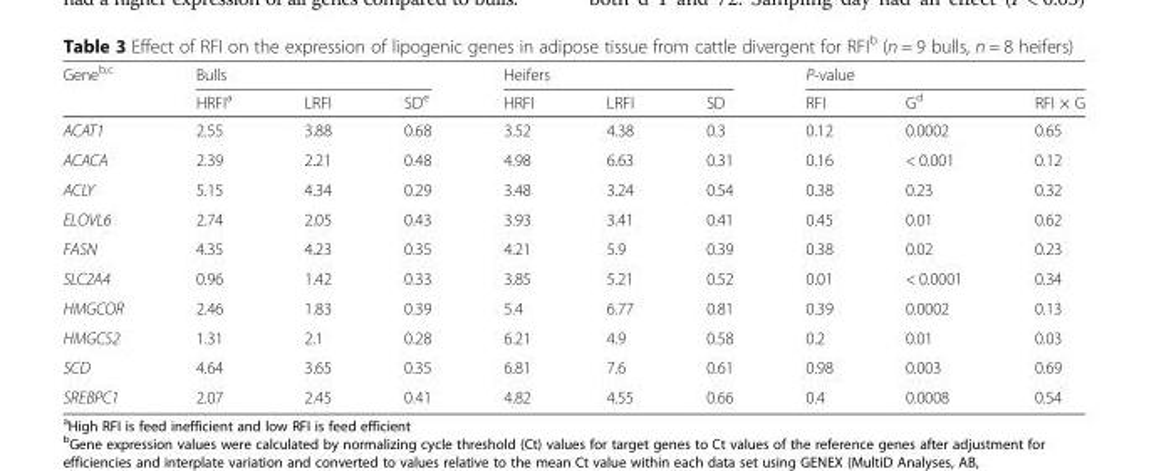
<table><thead><tr><td rowspan="2">Gene<sup>b,c</sup></td><td colspan="3">Bulls</td><td colspan="3">Heifers</td><td colspan="3">P-value</td></tr><tr><td>HRFI<sup>a</sup></td><td>LRFI</td><td>SD<sup>e</sup></td><td>HRFI</td><td>LRFI</td><td>SD</td><td>RFI</td><td>G<sup>d</sup></td><td>RFI × G</td></tr></thead><tbody><tr><td>ACAT1</td><td>2.55</td><td>3.88</td><td>0.68</td><td>3.52</td><td>4.38</td><td>0.3</td><td>0.12</td><td>0.0002</td><td>0.65</td></tr><tr><td>ACACA</td><td>2.39</td><td>2.21</td><td>0.48</td><td>4.98</td><td>6.63</td><td>0.31</td><td>0.16</td><td>&lt; 0.001</td><td>0.12</td></tr><tr><td>ACLY</td><td>5.15</td><td>4.34</td><td>0.29</td><td>3.48</td><td>3.24</td><td>0.54</td><td>0.38</td><td>0.23</td><td>0.32</td></tr><tr><td>ELOVL6</td><td>2.74</td><td>2.05</td><td>0.43</td><td>3.93</td><td>3.41</td><td>0.41</td><td>0.45</td><td>0.01</td><td>0.62</td></tr><tr><td>FASN</td><td>4.35</td><td>4.23</td><td>0.35</td><td>4.21</td><td>5.9</td><td>0.39</td><td>0.38</td><td>0.02</td><td>0.23</td></tr><tr><td>SLC2A4</td><td>0.96</td><td>1.42</td><td>0.33</td><td>3.85</td><td>5.21</td><td>0.52</td><td>0.01</td><td>&lt; 0.0001</td><td>0.34</td></tr><tr><td>HMGCOR</td><td>2.46</td><td>1.83</td><td>0.39</td><td>5.4</td><td>6.77</td><td>0.81</td><td>0.39</td><td>0.0002</td><td>0.13</td></tr><tr><td>HMGCS2</td><td>1.31</td><td>2.1</td><td>0.28</td><td>6.21</td><td>4.9</td><td>0.58</td><td>0.2</td><td>0.01</td><td>0.03</td></tr><tr><td>SCD</td><td>4.64</td><td>3.65</td><td>0.35</td><td>6.81</td><td>7.6</td><td>0.61</td><td>0.98</td><td>0.003</td><td>0.69</td></tr><tr><td>SREBPC1</td><td>2.07</td><td>2.45</td><td>0.41</td><td>4.82</td><td>4.55</td><td>0.66</td><td>0.4</td><td>0.0008</td><td>0.54</td></tr></tbody></table>